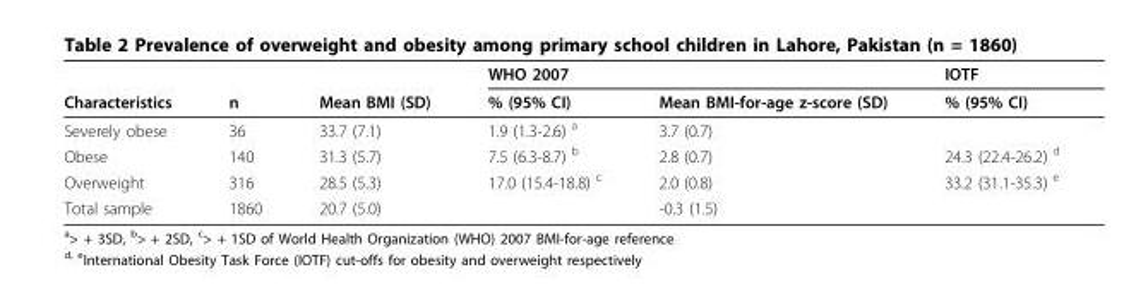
<table><thead><tr><td rowspan="2">Characteristics</td><td rowspan="2">n</td><td rowspan="2">Mean BMI (SD)</td><td colspan="2">WHO 2007</td><td rowspan="2">IOTF % (95% CI)</td></tr><tr><td>% (95% CI)</td><td>Mean BMI-for-age z-score (SD)</td></tr></thead><tbody><tr><td>Severely obese</td><td>36</td><td>33.7 (7.1)</td><td>1.9 (1.3-2.6) <sup>a</sup></td><td>3.7 (0.7)</td><td></td></tr><tr><td>Obese</td><td>140</td><td>31.3 (5.7)</td><td>7.5 (6.3-8.7) <sup>b</sup></td><td>2.8 (0.7)</td><td>24.3 (22.4-26.2) <sup>d</sup></td></tr><tr><td>Overweight</td><td>316</td><td>28.5 (5.3)</td><td>17.0 (15.4-18.8) <sup>c</sup></td><td>2.0 (0.8)</td><td>33.2 (31.1-35.3) <sup>e</sup></td></tr><tr><td>Total sample</td><td>1860</td><td>20.7 (5.0)</td><td></td><td>-0.3 (1.5)</td><td></td></tr></tbody></table>